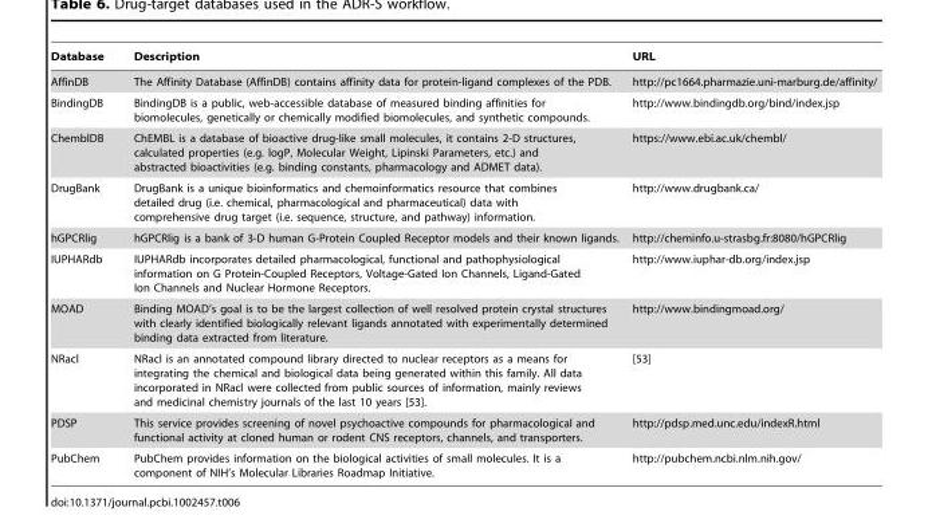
<table><thead><tr><td>Database</td><td>Description</td><td>URL</td></tr></thead><tbody><tr><td>AffinDB</td><td>The Affinity Database (AffinDB) contains affinity data for protein-ligand complexes of the PDB.</td><td>http://pc1664.pharmazie.uni-marburg.de/affinity/</td></tr><tr><td>BindingDB</td><td>BindingDB is a public, web-accessible database of measured binding affinities for biomolecules, genetically or chemically modified biomolecules, and synthetic compounds.</td><td>http://www.bindingdb.org/bind/index.jsp</td></tr><tr><td>ChemblDB</td><td>ChEMBL is a database of bioactive drug-like small molecules, it contains 2-D structures, calculated properties (e.g. logP, Molecular Weight, Lipinski Parameters, etc.) and abstracted bioactivities (e.g. binding constants, pharmacology and ADMET data).</td><td>https://www.ebi.ac.uk/chembl/</td></tr><tr><td>DrugBank</td><td>DrugBank is a unique bioinformatics and chemoinformatics resource that combines detailed drug (i.e. chemical, pharmacological and pharmaceutical) data with comprehensive drug target (i.e. sequence, structure, and pathway) information.</td><td>http://www.drugbank.ca/</td></tr><tr><td>hGPCRlig</td><td>hGPCRlig is a bank of 3-D human G-Protein Coupled Receptor models and their known ligands.</td><td>http://cheminfo.u-strasbg.fr:8080/hGPCRlig</td></tr><tr><td>IUPHARdb</td><td>IUPHARdb incorporates detailed pharmacological, functional and pathophysiological information on G Protein-Coupled Receptors, Voltage-Gated Ion Channels, Ligand-Gated Ion Channels and Nuclear Hormone Receptors.</td><td>http://www.iuphar-db.org/index.jsp</td></tr><tr><td>MOAD</td><td>Binding MOAD’s goal is to be the largest collection of well resolved protein crystal structures with clearly identified biologically relevant ligands annotated with experimentally determined binding data extracted from literature.</td><td>http://www.bindingmoad.org/</td></tr><tr><td>NRacl</td><td>NRacl is an annotated compound library directed to nuclear receptors as a means for integrating the chemical and biological data being generated within this family. All data incorporated in NRacl were collected from public sources of information, mainly reviews and medicinal chemistry journals of the last 10 years [53].</td><td>[53]</td></tr><tr><td>PDSP</td><td>This service provides screening of novel psychoactive compounds for pharmacological and functional activity at cloned human or rodent CNS receptors, channels, and transporters.</td><td>http://pdsp.med.unc.edu/indexR.html</td></tr><tr><td>PubChem</td><td>PubChem provides information on the biological activities of small molecules. It is a component of NIH’s Molecular Libraries Roadmap Initiative.</td><td>http://pubchem.ncbi.nlm.nih.gov/</td></tr></tbody></table>